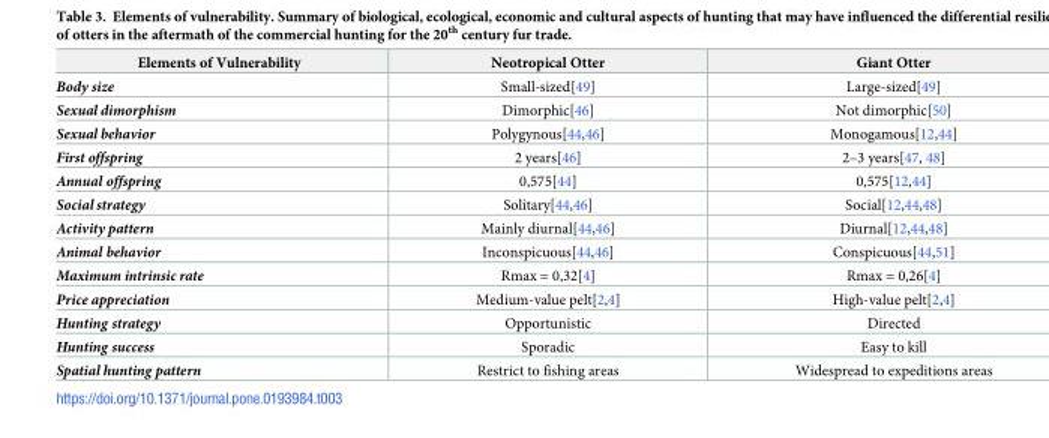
<table><thead><tr><td>Elements of Vulnerability</td><td>Neotropical Otter</td><td>Giant Otter</td></tr></thead><tbody><tr><td>Body size</td><td>Small-sized[49]</td><td>Large-sized[49]</td></tr><tr><td>Sexual dimorphism</td><td>Dimorphic[46]</td><td>Not dimorphic[50]</td></tr><tr><td>Sexual behavior</td><td>Polygynous[44,46]</td><td>Monogamous[12,44]</td></tr><tr><td>First offspring</td><td>2 years[46]</td><td>2–3 years[47, 48]</td></tr><tr><td>Annual offspring</td><td>0,575[44]</td><td>0,575[12,44]</td></tr><tr><td>Social strategy</td><td>Solitary[44,46]</td><td>Social[12,44,48]</td></tr><tr><td>Activity pattern</td><td>Mainly diurnal[44,46]</td><td>Diurnal[12,44,48]</td></tr><tr><td>Animal behavior</td><td>Inconspicuous[44,46]</td><td>Conspicuous[44,51]</td></tr><tr><td>Maximum intrinsic rate</td><td>Rmax = 0,32[4]</td><td>Rmax = 0,26[4]</td></tr><tr><td>Price appreciation</td><td>Medium-value pelt[2,4]</td><td>High-value pelt[2,4]</td></tr><tr><td>Hunting strategy</td><td>Opportunistic</td><td>Directed</td></tr><tr><td>Hunting success</td><td>Sporadic</td><td>Easy to kill</td></tr><tr><td>Spatial hunting pattern</td><td>Restrict to fishing areas</td><td>Widespread to expeditions areas</td></tr></tbody></table>